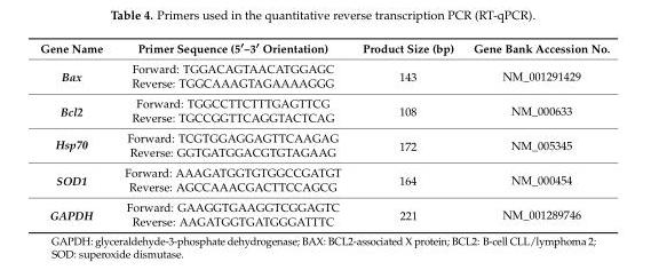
<table><thead><tr><td>Gene Name</td><td>Primer Sequence (5′–3′ Orientation)</td><td>Product Size (bp)</td><td>Gene Bank Accession No.</td></tr></thead><tbody><tr><td rowspan="2">Bax</td><td>Forward: TGGACAGTAACATGGAGC</td><td rowspan="2">143</td><td rowspan="2">NM_001291429</td></tr><tr><td>Reverse: TGGCAAAGTAGAAAAGGG</td></tr><tr><td rowspan="2">Bcl2</td><td>Forward: TGGCCTTCTTTGAGTTCG</td><td rowspan="2">108</td><td rowspan="2">NM_000633</td></tr><tr><td>Reverse: TGCCGGTTCAGGTACTCAG</td></tr><tr><td rowspan="2">Hsp70</td><td>Forward: TCGTGGAGGAGTTCAAGAG</td><td rowspan="2">172</td><td rowspan="2">NM_005345</td></tr><tr><td>Reverse: GGTGATGGACGTGTAGAAG</td></tr><tr><td rowspan="2">SOD1</td><td>Forward: AAAGATGGTGTGGCCGATGT</td><td rowspan="2">164</td><td rowspan="2">NM_000454</td></tr><tr><td>Reverse: AGCCAAACGACTTCCAGCG</td></tr><tr><td rowspan="2">GAPDH</td><td>Forward: GAAGGTGAAGGTCGGAGTC</td><td rowspan="2">221</td><td rowspan="2">NM_001289746</td></tr><tr><td>Reverse: AAGATGGTGATGGGATTTC</td></tr></tbody></table>